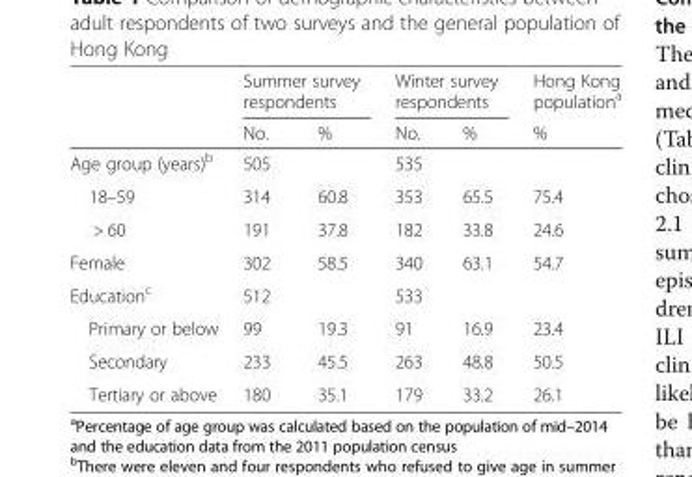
<table><thead><tr><td rowspan="2"></td><td colspan="2">Summer survey respondents</td><td colspan="2">Winter survey respondents</td><td rowspan="2">Hong Kong population<sup>a</sup> %</td></tr><tr><td>No.</td><td>%</td><td>No.</td><td>%</td></tr></thead><tbody><tr><td>Age group (years)<sup>b</sup></td><td>505</td><td></td><td>535</td><td></td><td></td></tr><tr><td>18–59</td><td>314</td><td>60.8</td><td>353</td><td>65.5</td><td>75.4</td></tr><tr><td>&gt; 60</td><td>191</td><td>37.8</td><td>182</td><td>33.8</td><td>24.6</td></tr><tr><td>Female</td><td>302</td><td>58.5</td><td>340</td><td>63.1</td><td>54.7</td></tr><tr><td>Education<sup>c</sup></td><td>512</td><td></td><td>533</td><td></td><td></td></tr><tr><td>Primary or below</td><td>99</td><td>19.3</td><td>91</td><td>16.9</td><td>23.4</td></tr><tr><td>Secondary</td><td>233</td><td>45.5</td><td>263</td><td>48.8</td><td>50.5</td></tr><tr><td>Tertiary or above</td><td>180</td><td>35.1</td><td>179</td><td>33.2</td><td>26.1</td></tr></tbody></table>